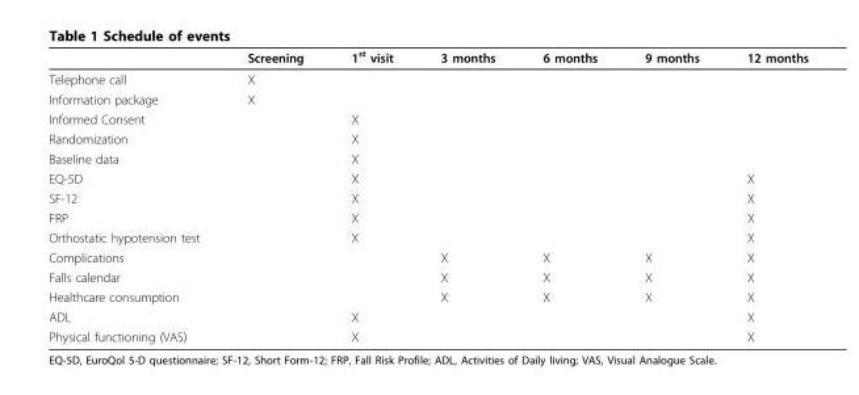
<table><thead><tr><td></td><td>Screening</td><td>1<sup>st</sup> visit</td><td>3 months</td><td>6 months</td><td>9 months</td><td>12 months</td></tr></thead><tbody><tr><td>Telephone call</td><td>X</td><td></td><td></td><td></td><td></td><td></td></tr><tr><td>Information package</td><td>X</td><td></td><td></td><td></td><td></td><td></td></tr><tr><td>Informed Consent</td><td></td><td>X</td><td></td><td></td><td></td><td></td></tr><tr><td>Randomization</td><td></td><td>X</td><td></td><td></td><td></td><td></td></tr><tr><td>Baseline data</td><td></td><td>X</td><td></td><td></td><td></td><td></td></tr><tr><td>EQ-5D</td><td></td><td>X</td><td></td><td></td><td></td><td>X</td></tr><tr><td>SF-12</td><td></td><td>X</td><td></td><td></td><td></td><td>X</td></tr><tr><td>FRP</td><td></td><td>X</td><td></td><td></td><td></td><td>X</td></tr><tr><td>Orthostatic hypotension test</td><td></td><td>X</td><td></td><td></td><td></td><td>X</td></tr><tr><td>Complications</td><td></td><td></td><td>X</td><td>X</td><td>X</td><td>X</td></tr><tr><td>Falls calendar</td><td></td><td></td><td>X</td><td>X</td><td>X</td><td>X</td></tr><tr><td>Healthcare consumption</td><td></td><td></td><td>X</td><td>X</td><td>X</td><td>X</td></tr><tr><td>ADL</td><td></td><td>X</td><td></td><td></td><td></td><td>X</td></tr><tr><td>Physical functioning (VAS)</td><td></td><td>X</td><td></td><td></td><td></td><td>X</td></tr></tbody></table>